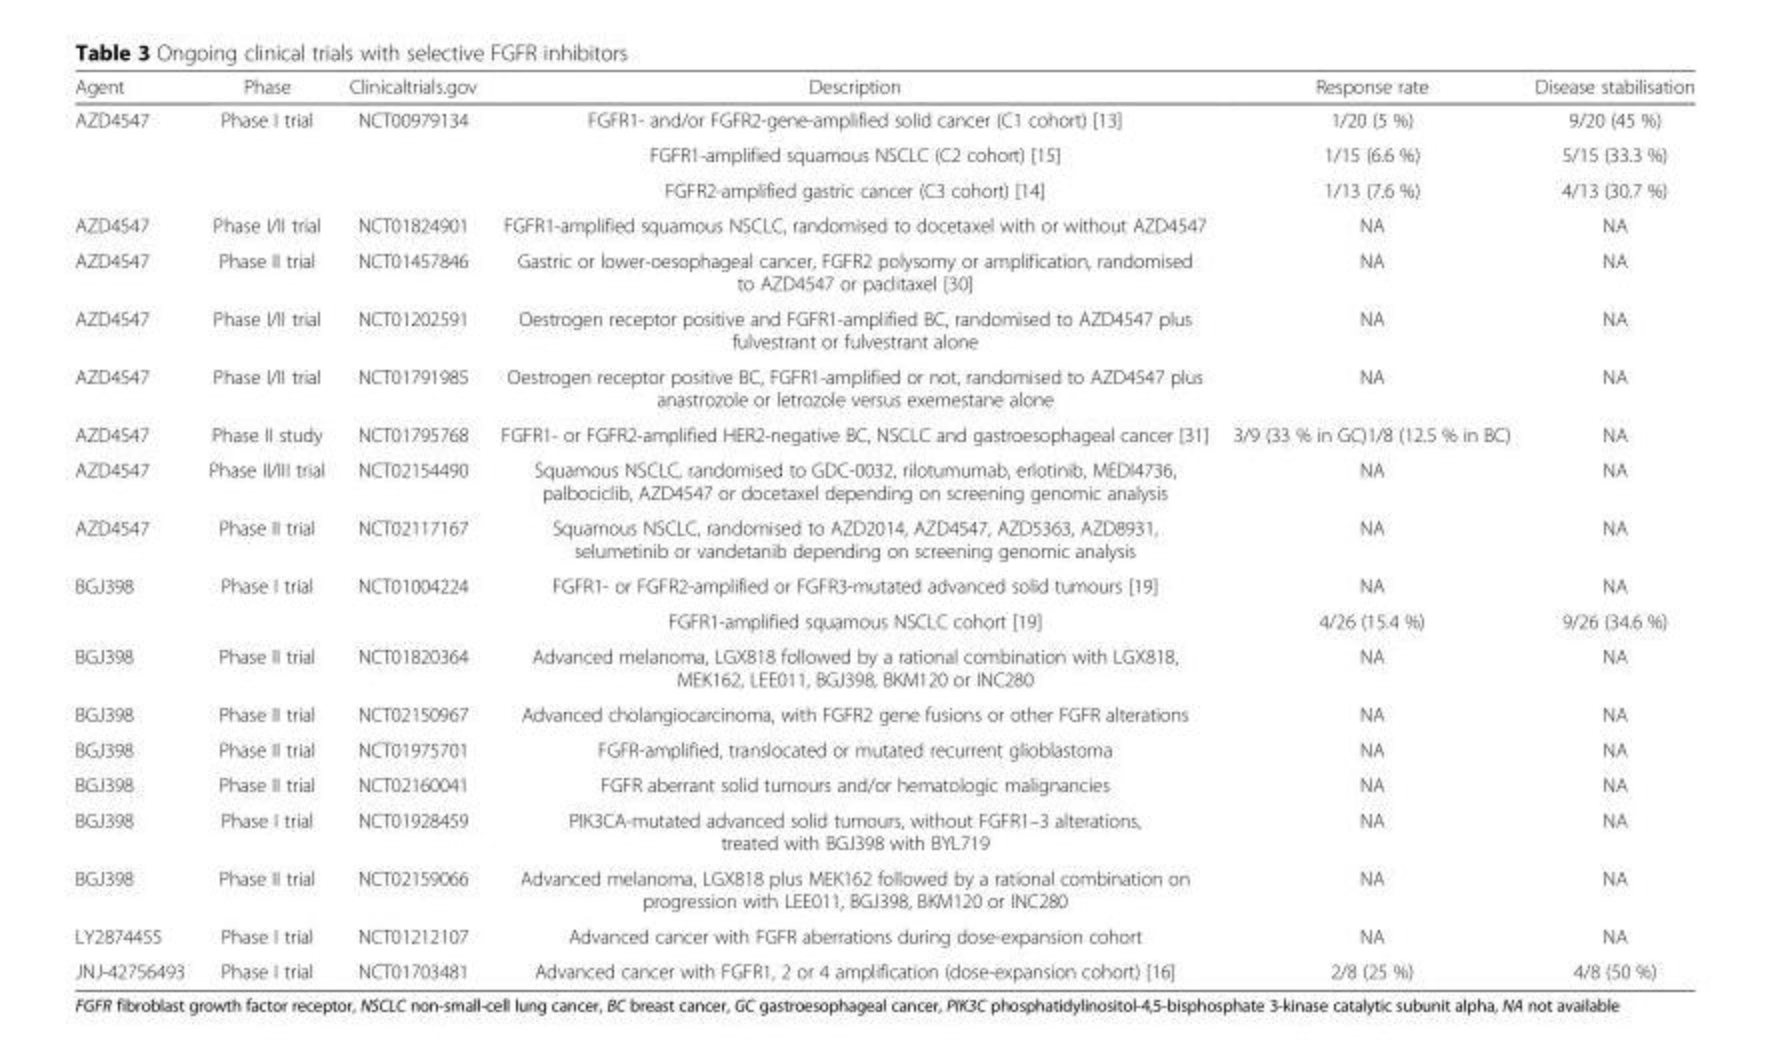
<table><thead><tr><td>Agent</td><td>Phase</td><td>Clinicaltrials.gov</td><td>Description</td><td>Response rate</td><td>Disease stabilisation</td></tr></thead><tbody><tr><td rowspan="3">AZD4547</td><td rowspan="3">Phase I trial</td><td rowspan="3">NCT00979134</td><td>FGFR1- and/or FGFR2-gene-amplified solid cancer (C1 cohort) [13]</td><td>1/20 (5 %)</td><td>9/20 (45 %)</td></tr><tr><td>FGFR1-amplified squamous NSCLC (C2 cohort) [15]</td><td>1/15 (6.6 %)</td><td>5/15 (33.3 %)</td></tr><tr><td>FGFR2-amplified gastric cancer (C3 cohort) [14]</td><td>1/13 (7.6 %)</td><td>4/13 (30.7 %)</td></tr><tr><td>AZD4547</td><td>Phase I/II trial</td><td>NCT01824901</td><td>FGFR1-amplified squamous NSCLC, randomised to docetaxel with or without AZD4547</td><td>NA</td><td>NA</td></tr><tr><td>AZD4547</td><td>Phase II trial</td><td>NCT01457846</td><td>Gastric or lower-oesophageal cancer, FGFR2 polysomy or amplification, randomised to AZD4547 or paclitaxel [30]</td><td>NA</td><td>NA</td></tr><tr><td>AZD4547</td><td>Phase I/II trial</td><td>NCT01202591</td><td>Oestrogen receptor positive and FGFR1-amplified BC, randomised to AZD4547 plus fulvestrant or fulvestrant alone</td><td>NA</td><td>NA</td></tr><tr><td>AZD4547</td><td>Phase I/II trial</td><td>NCT01791985</td><td>Oestrogen receptor positive BC, FGFR1-amplified or not, randomised to AZD4547 plus anastrozole or letrozole versus exemestane alone</td><td>NA</td><td>NA</td></tr><tr><td>AZD4547</td><td>Phase II study</td><td>NCT01795768</td><td>FGFR1- or FGFR2-amplified HER2-negative BC, NSCLC and gastroesophageal cancer [31]</td><td>3/9 (33 % in GC)1/8 (12.5 % in BC)</td><td>NA</td></tr><tr><td>AZD4547</td><td>Phase II/III trial</td><td>NCT02154490</td><td>Squamous NSCLC, randomised to GDC-0032, rilotumumab, erlotinib, MEDI4736, palbociclib, AZD4547 or docetaxel depending on screening genomic analysis</td><td>NA</td><td>NA</td></tr><tr><td>AZD4547</td><td>Phase II trial</td><td>NCT02117167</td><td>Squamous NSCLC, randomised to AZD2014, AZD4547, AZD5363, AZD8931, selumetinib or vandetanib depending on screening genomic analysis</td><td>NA</td><td>NA</td></tr><tr><td rowspan="2">BGJ398</td><td rowspan="2">Phase I trial</td><td rowspan="2">NCT01004224</td><td>FGFR1- or FGFR2-amplified or FGFR3-mutated advanced solid tumours [19]</td><td>NA</td><td>NA</td></tr><tr><td>FGFR1-amplified squamous NSCLC cohort [19]</td><td>4/26 (15.4 %)</td><td>9/26 (34.6 %)</td></tr><tr><td>BGJ398</td><td>Phase II trial</td><td>NCT01820364</td><td>Advanced melanoma, LGX818 followed by a rational combination with LGX818, MEK162, LEE011, BGJ398, BKM120 or INC280</td><td>NA</td><td>NA</td></tr><tr><td>BGJ398</td><td>Phase II trial</td><td>NCT02150967</td><td>Advanced cholangiocarcinoma, with FGFR2 gene fusions or other FGFR alterations</td><td>NA</td><td>NA</td></tr><tr><td>BGJ398</td><td>Phase II trial</td><td>NCT01975701</td><td>FGFR-amplified, translocated or mutated recurrent glioblastoma</td><td>NA</td><td>NA</td></tr><tr><td>BGJ398</td><td>Phase II trial</td><td>NCT02160041</td><td>FGFR aberrant solid tumours and/or hematologic malignancies</td><td>NA</td><td>NA</td></tr><tr><td>BGJ398</td><td>Phase I trial</td><td>NCT01928459</td><td>PIK3CA-mutated advanced solid tumours, without FGFR1–3 alterations, treated with BGJ398 with BYL719</td><td>NA</td><td>NA</td></tr><tr><td>BGJ398</td><td>Phase II trial</td><td>NCT02159066</td><td>Advanced melanoma, LGX818 plus MEK162 followed by a rational combination on progression with LEE011, BGJ398, BKM120 or INC280</td><td>NA</td><td>NA</td></tr><tr><td>LY2874455</td><td>Phase I trial</td><td>NCT01212107</td><td>Advanced cancer with FGFR aberrations during dose-expansion cohort</td><td>NA</td><td>NA</td></tr><tr><td>JNJ-42756493</td><td>Phase I trial</td><td>NCT01703481</td><td>Advanced cancer with FGFR1, 2 or 4 amplification (dose-expansion cohort) [16]</td><td>2/8 (25 %)</td><td>4/8 (50 %)</td></tr></tbody></table>